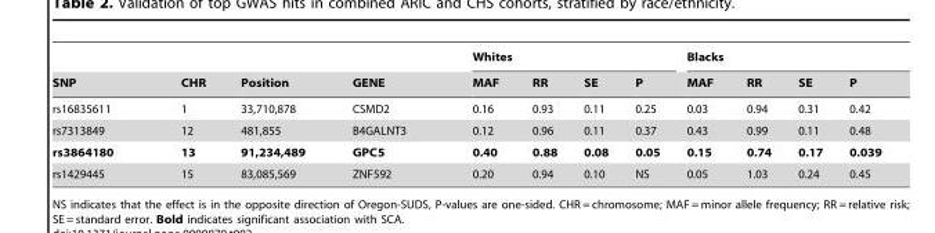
<table><thead><tr><td rowspan="2">SNP</td><td rowspan="2">CHR</td><td rowspan="2">Position</td><td rowspan="2">GENE</td><td colspan="4">Whites</td><td colspan="4">Blacks</td></tr><tr><td>MAF</td><td>RR</td><td>SE</td><td>P</td><td>MAF</td><td>RR</td><td>SE</td><td>P</td></tr></thead><tbody><tr><td>rs16835611</td><td>1</td><td>33,710,878</td><td>CSMD2</td><td>0.16</td><td>0.93</td><td>0.11</td><td>0.25</td><td>0.03</td><td>0.94</td><td>0.31</td><td>0.42</td></tr><tr><td>rs7313849</td><td>12</td><td>481,855</td><td>B4GALNT3</td><td>0.12</td><td>0.96</td><td>0.11</td><td>0.37</td><td>0.43</td><td>0.99</td><td>0.11</td><td>0.48</td></tr><tr><td>rs3864180</td><td>13</td><td>91,234,489</td><td>GPC5</td><td>0.40</td><td>0.88</td><td>0.08</td><td>0.05</td><td>0.15</td><td>0.74</td><td>0.17</td><td>0.039</td></tr><tr><td>rs1429445</td><td>15</td><td>83,085,569</td><td>ZNF592</td><td>0.20</td><td>0.94</td><td>0.10</td><td>NS</td><td>0.05</td><td>1.03</td><td>0.24</td><td>0.45</td></tr></tbody></table>